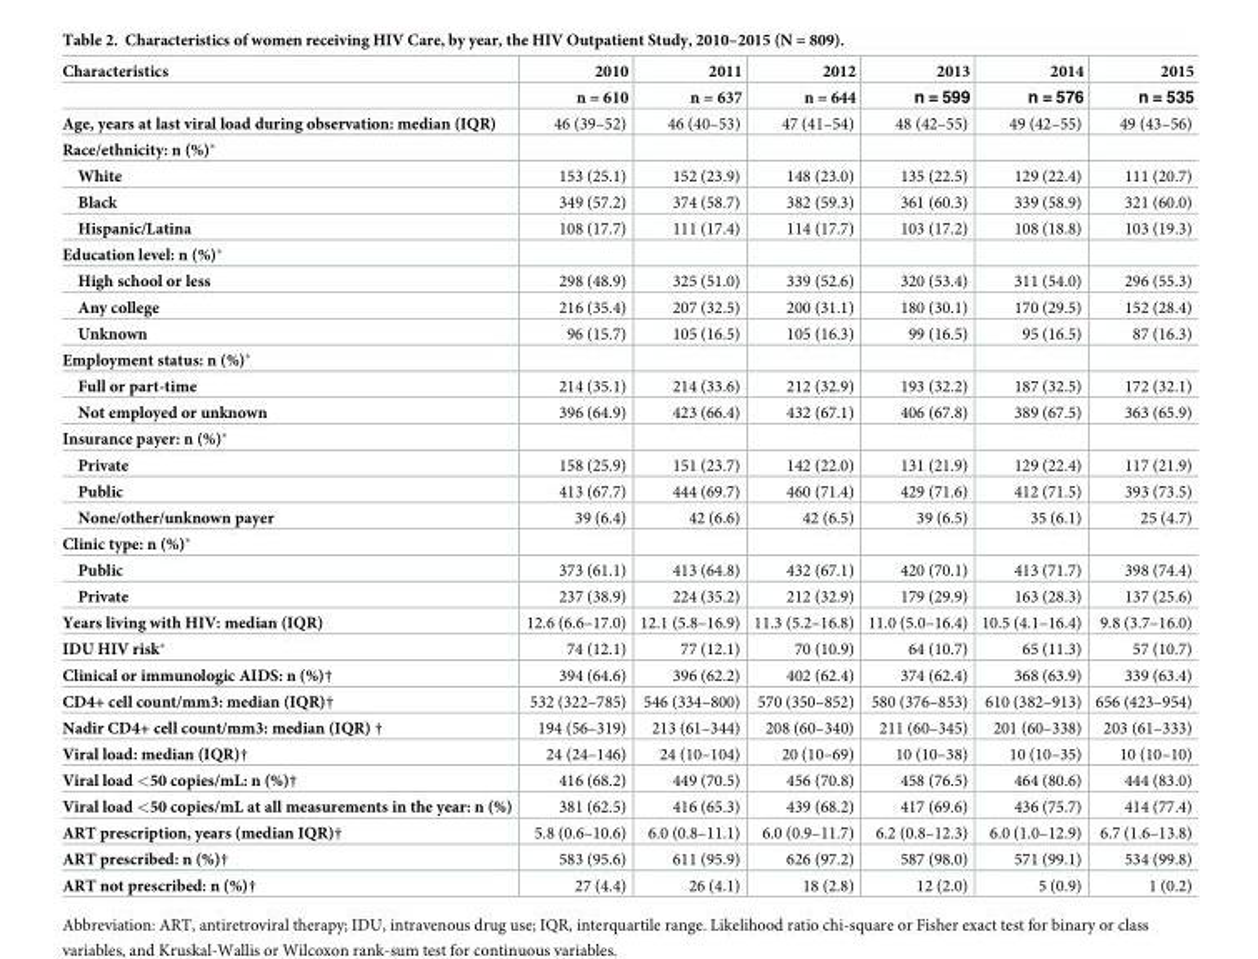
<table><thead><tr><td rowspan="2">Characteristics</td><td rowspan="2">2010 n = 610</td><td rowspan="2">2011 n = 637</td><td rowspan="2">2012 n = 644</td><td rowspan="2">2013 n = 599</td><td rowspan="2">2014 n = 576</td><td rowspan="2">2015 n = 535</td></tr><tr></tr></thead><tbody><tr><td>Age, years at last viral load during observation: median (IQR)</td><td>46 (39–52)</td><td>46 (40–53)</td><td>47 (41–54)</td><td>48 (42–55)</td><td>49 (42–55)</td><td>49 (43–56)</td></tr><tr><td colspan="7">Race/ethnicity: n (%)*</td></tr><tr><td>White</td><td>153 (25.1)</td><td>152 (23.9)</td><td>148 (23.0)</td><td>135 (22.5)</td><td>129 (22.4)</td><td>111 (20.7)</td></tr><tr><td>Black</td><td>349 (57.2)</td><td>374 (58.7)</td><td>382 (59.3)</td><td>361 (60.3)</td><td>339 (58.9)</td><td>321 (60.0)</td></tr><tr><td>Hispanic/Latina</td><td>108 (17.7)</td><td>111 (17.4)</td><td>114 (17.7)</td><td>103 (17.2)</td><td>108 (18.8)</td><td>103 (19.3)</td></tr><tr><td colspan="7">Education level: n (%)*</td></tr><tr><td>High school or less</td><td>298 (48.9)</td><td>325 (51.0)</td><td>339 (52.6)</td><td>320 (53.4)</td><td>311 (54.0)</td><td>296 (55.3)</td></tr><tr><td>Any college</td><td>216 (35.4)</td><td>207 (32.5)</td><td>200 (31.1)</td><td>180 (30.1)</td><td>170 (29.5)</td><td>152 (28.4)</td></tr><tr><td>Unknown</td><td>96 (15.7)</td><td>105 (16.5)</td><td>105 (16.3)</td><td>99 (16.5)</td><td>95 (16.5)</td><td>87 (16.3)</td></tr><tr><td colspan="7">Employment status: n (%)*</td></tr><tr><td>Full or part-time</td><td>214 (35.1)</td><td>214 (33.6)</td><td>212 (32.9)</td><td>193 (32.2)</td><td>187 (32.5)</td><td>172 (32.1)</td></tr><tr><td>Not employed or unknown</td><td>396 (64.9)</td><td>423 (66.4)</td><td>432 (67.1)</td><td>406 (67.8)</td><td>389 (67.5)</td><td>363 (65.9)</td></tr><tr><td colspan="7">Insurance payer: n (%)*</td></tr><tr><td>Private</td><td>158 (25.9)</td><td>151 (23.7)</td><td>142 (22.0)</td><td>131 (21.9)</td><td>129 (22.4)</td><td>117 (21.9)</td></tr><tr><td>Public</td><td>413 (67.7)</td><td>444 (69.7)</td><td>460 (71.4)</td><td>429 (71.6)</td><td>412 (71.5)</td><td>393 (73.5)</td></tr><tr><td>None/other/unknown payer</td><td>39 (6.4)</td><td>42 (6.6)</td><td>42 (6.5)</td><td>39 (6.5)</td><td>35 (6.1)</td><td>25 (4.7)</td></tr><tr><td colspan="7">Clinic type: n (%)*</td></tr><tr><td>Public</td><td>373 (61.1)</td><td>413 (64.8)</td><td>432 (67.1)</td><td>420 (70.1)</td><td>413 (71.7)</td><td>398 (74.4)</td></tr><tr><td>Private</td><td>237 (38.9)</td><td>224 (35.2)</td><td>212 (32.9)</td><td>179 (29.9)</td><td>163 (28.3)</td><td>137 (25.6)</td></tr><tr><td>Years living with HIV: median (IQR)</td><td>12.6 (6.6–17.0)</td><td>12.1 (5.8–16.9)</td><td>11.3 (5.2–16.8)</td><td>11.0 (5.0–16.4)</td><td>10.5 (4.1–16.4)</td><td>9.8 (3.7–16.0)</td></tr><tr><td>IDU HIV risk*</td><td>74 (12.1)</td><td>77 (12.1)</td><td>70 (10.9)</td><td>64 (10.7)</td><td>65 (11.3)</td><td>57 (10.7)</td></tr><tr><td>Clinical or immunologic AIDS: n (%)†</td><td>394 (64.6)</td><td>396 (62.2)</td><td>402 (62.4)</td><td>374 (62.4)</td><td>368 (63.9)</td><td>339 (63.4)</td></tr><tr><td>CD4+ cell count/mm3: median (IQR)†</td><td>532 (322–785)</td><td>546 (334–800)</td><td>570 (350–852)</td><td>580 (376–853)</td><td>610 (382–913)</td><td>656 (423–954)</td></tr><tr><td>Nadir CD4+ cell count/mm3: median (IQR) †</td><td>194 (56–319)</td><td>213 (61–344)</td><td>208 (60–340)</td><td>211 (60–345)</td><td>201 (60–338)</td><td>203 (61–333)</td></tr><tr><td>Viral load: median (IQR)†</td><td>24 (24–146)</td><td>24 (10–104)</td><td>20 (10–69)</td><td>10 (10–38)</td><td>10 (10–35)</td><td>10 (10–10)</td></tr><tr><td>Viral load &lt;50 copies/mL: n (%)†</td><td>416 (68.2)</td><td>449 (70.5)</td><td>456 (70.8)</td><td>458 (76.5)</td><td>464 (80.6)</td><td>444 (83.0)</td></tr><tr><td>Viral load &lt;50 copies/mL at all measurements in the year: n (%)</td><td>381 (62.5)</td><td>416 (65.3)</td><td>439 (68.2)</td><td>417 (69.6)</td><td>436 (75.7)</td><td>414 (77.4)</td></tr><tr><td>ART prescription, years (median IQR)†</td><td>5.8 (0.6–10.6)</td><td>6.0 (0.8–11.1)</td><td>6.0 (0.9–11.7)</td><td>6.2 (0.8–12.3)</td><td>6.0 (1.0–12.9)</td><td>6.7 (1.6–13.8)</td></tr><tr><td>ART prescribed: n (%)†</td><td>583 (95.6)</td><td>611 (95.9)</td><td>626 (97.2)</td><td>587 (98.0)</td><td>571 (99.1)</td><td>534 (99.8)</td></tr><tr><td>ART not prescribed: n (%)†</td><td>27 (4.4)</td><td>26 (4.1)</td><td>18 (2.8)</td><td>12 (2.0)</td><td>5 (0.9)</td><td>1 (0.2)</td></tr></tbody></table>